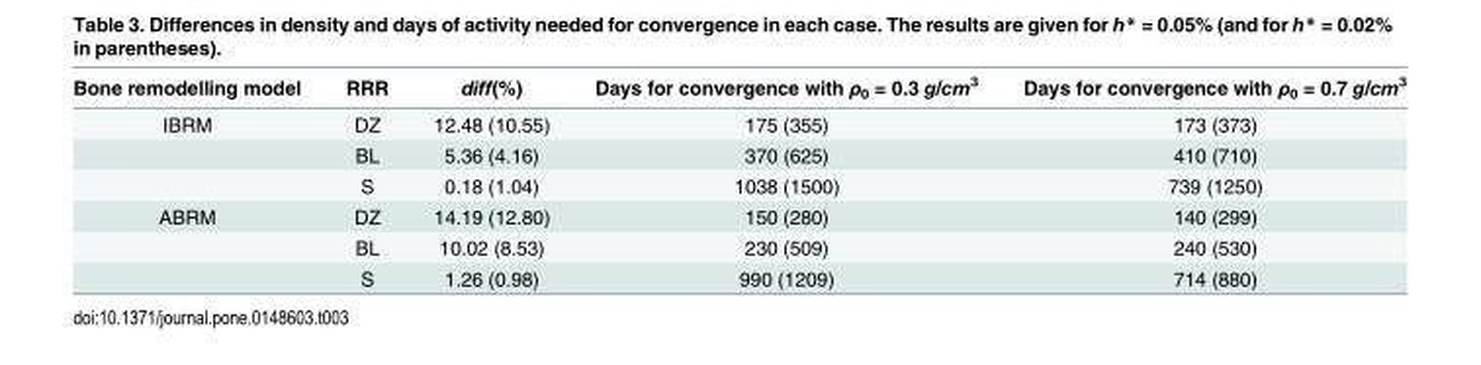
<table><thead><tr><td>Bone remodelling model</td><td>RRR</td><td>diff(%)</td><td>Days for convergence with ρ<sub>0</sub> = 0.3 g/cm<sup>3</sup></td><td>Days for convergence with ρ<sub>0</sub> = 0.7 g/cm<sup>3</sup></td></tr></thead><tbody><tr><td rowspan="3">IBRM</td><td>DZ</td><td>12.48 (10.55)</td><td>175 (355)</td><td>173 (373)</td></tr><tr><td>BL</td><td>5.36 (4.16)</td><td>370 (625)</td><td>410 (710)</td></tr><tr><td>S</td><td>0.18 (1.04)</td><td>1038 (1500)</td><td>739 (1250)</td></tr><tr><td rowspan="3">ABRM</td><td>DZ</td><td>14.19 (12.80)</td><td>150 (280)</td><td>140 (299)</td></tr><tr><td>BL</td><td>10.02 (8.53)</td><td>230 (509)</td><td>240 (530)</td></tr><tr><td>S</td><td>1.26 (0.98)</td><td>990 (1209)</td><td>714 (880)</td></tr></tbody></table>